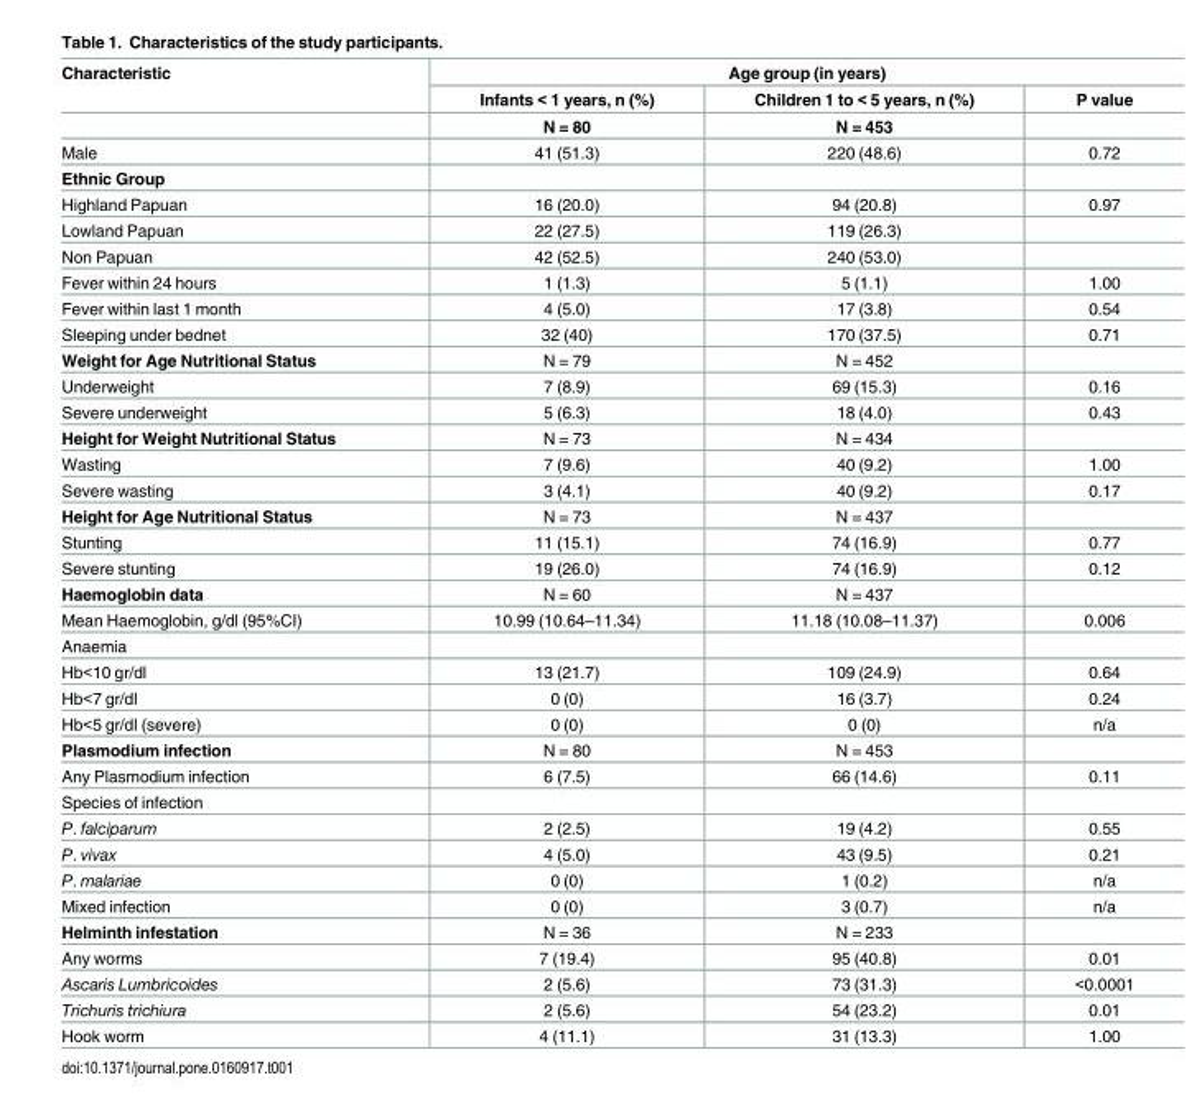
<table><thead><tr><td rowspan="2">Characteristic</td><td colspan="3">Age group (in years)</td></tr><tr><td>Infants &lt; 1 years, n (%)</td><td>Children 1 to &lt; 5 years, n (%)</td><td>P value</td></tr></thead><tbody><tr><td></td><td>N = 80</td><td>N = 453</td><td></td></tr><tr><td>Male</td><td>41 (51.3)</td><td>220 (48.6)</td><td>0.72</td></tr><tr><td colspan="4">Ethnic Group</td></tr><tr><td>Highland Papuan</td><td>16 (20.0)</td><td>94 (20.8)</td><td>0.97</td></tr><tr><td>Lowland Papuan</td><td>22 (27.5)</td><td>119 (26.3)</td><td></td></tr><tr><td>Non Papuan</td><td>42 (52.5)</td><td>240 (53.0)</td><td></td></tr><tr><td>Fever within 24 hours</td><td>1 (1.3)</td><td>5 (1.1)</td><td>1.00</td></tr><tr><td>Fever within last 1 month</td><td>4 (5.0)</td><td>17 (3.8)</td><td>0.54</td></tr><tr><td>Sleeping under bednet</td><td>32 (40)</td><td>170 (37.5)</td><td>0.71</td></tr><tr><td>Weight for Age Nutritional Status</td><td>N = 79</td><td>N = 452</td><td></td></tr><tr><td>Underweight</td><td>7 (8.9)</td><td>69 (15.3)</td><td>0.16</td></tr><tr><td>Severe underweight</td><td>5 (6.3)</td><td>18 (4.0)</td><td>0.43</td></tr><tr><td>Height for Weight Nutritional Status</td><td>N = 73</td><td>N = 434</td><td></td></tr><tr><td>Wasting</td><td>7 (9.6)</td><td>40 (9.2)</td><td>1.00</td></tr><tr><td>Severe wasting</td><td>3 (4.1)</td><td>40 (9.2)</td><td>0.17</td></tr><tr><td>Height for Age Nutritional Status</td><td>N = 73</td><td>N = 437</td><td></td></tr><tr><td>Stunting</td><td>11 (15.1)</td><td>74 (16.9)</td><td>0.77</td></tr><tr><td>Severe stunting</td><td>19 (26.0)</td><td>74 (16.9)</td><td>0.12</td></tr><tr><td>Haemoglobin data</td><td>N = 60</td><td>N = 437</td><td></td></tr><tr><td>Mean Haemoglobin, g/dl (95%CI)</td><td>10.99 (10.64–11.34)</td><td>11.18 (10.08–11.37)</td><td>0.006</td></tr><tr><td colspan="4">Anaemia</td></tr><tr><td>Hb&lt;10 gr/dl</td><td>13 (21.7)</td><td>109 (24.9)</td><td>0.64</td></tr><tr><td>Hb&lt;7 gr/dl</td><td>0 (0)</td><td>16 (3.7)</td><td>0.24</td></tr><tr><td>Hb&lt;5 gr/dl (severe)</td><td>0 (0)</td><td>0 (0)</td><td>n/a</td></tr><tr><td>Plasmodium infection</td><td>N = 80</td><td>N = 453</td><td></td></tr><tr><td>Any Plasmodium infection</td><td>6 (7.5)</td><td>66 (14.6)</td><td>0.11</td></tr><tr><td colspan="4">Species of infection</td></tr><tr><td>P. falciparum</td><td>2 (2.5)</td><td>19 (4.2)</td><td>0.55</td></tr><tr><td>P. vivax</td><td>4 (5.0)</td><td>43 (9.5)</td><td>0.21</td></tr><tr><td>P. malariae</td><td>0 (0)</td><td>1 (0.2)</td><td>n/a</td></tr><tr><td>Mixed infection</td><td>0 (0)</td><td>3 (0.7)</td><td>n/a</td></tr><tr><td>Helminth infestation</td><td>N = 36</td><td>N = 233</td><td></td></tr><tr><td>Any worms</td><td>7 (19.4)</td><td>95 (40.8)</td><td>0.01</td></tr><tr><td>Ascaris Lumbricoides</td><td>2 (5.6)</td><td>73 (31.3)</td><td>&lt;0.0001</td></tr><tr><td>Trichuris trichiura</td><td>2 (5.6)</td><td>54 (23.2)</td><td>0.01</td></tr><tr><td>Hook worm</td><td>4 (11.1)</td><td>31 (13.3)</td><td>1.00</td></tr></tbody></table>